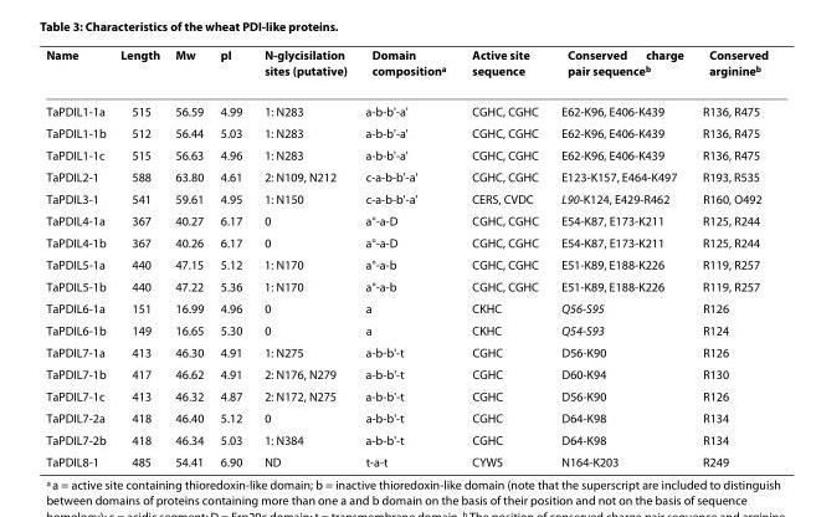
<table><thead><tr><td>Name</td><td>Length</td><td>Mw</td><td>pI</td><td>N-glycisilation sites (putative)</td><td>Domain composition<sup>a</sup></td><td>Active site sequence</td><td>Conserved charge pair sequence<sup>b</sup></td><td>Conserved arginine<sup>b</sup></td></tr></thead><tbody><tr><td>TaPDIL1-1a</td><td>515</td><td>56.59</td><td>4.99</td><td>1: N283</td><td>a-b-b&#x27;-a&#x27;</td><td>CGHC, CGHC</td><td>E62-K96, E406-K439</td><td>R136, R475</td></tr><tr><td>TaPDIL1-1b</td><td>512</td><td>56.44</td><td>5.03</td><td>1: N283</td><td>a-b-b&#x27;-a&#x27;</td><td>CGHC, CGHC</td><td>E62-K96, E406-K439</td><td>R136, R475</td></tr><tr><td>TaPDIL1-1c</td><td>515</td><td>56.63</td><td>4.96</td><td>1: N283</td><td>a-b-b&#x27;-a&#x27;</td><td>CGHC, CGHC</td><td>E62-K96, E406-K439</td><td>R136, R475</td></tr><tr><td>TaPDIL2-1</td><td>588</td><td>63.80</td><td>4.61</td><td>2: N109, N212</td><td>c-a-b-b&#x27;-a&#x27;</td><td>CGHC, CGHC</td><td>E123-K157, E464-K497</td><td>R193, R535</td></tr><tr><td>TaPDIL3-1</td><td>541</td><td>59.61</td><td>4.95</td><td>1: N150</td><td>c-a-b-b&#x27;-a&#x27;</td><td>CERS, CVDC</td><td>L90-K124, E429-R462</td><td>R160, O492</td></tr><tr><td>TaPDIL4-1a</td><td>367</td><td>40.27</td><td>6.17</td><td>0</td><td>a°-a-D</td><td>CGHC, CGHC</td><td>E54-K87, E173-K211</td><td>R125, R244</td></tr><tr><td>TaPDIL4-1b</td><td>367</td><td>40.26</td><td>6.17</td><td>0</td><td>a°-a-D</td><td>CGHC, CGHC</td><td>E54-K87, E173-K211</td><td>R125, R244</td></tr><tr><td>TaPDIL5-1a</td><td>440</td><td>47.15</td><td>5.12</td><td>1: N170</td><td>a°-a-b</td><td>CGHC, CGHC</td><td>E51-K89, E188-K226</td><td>R119, R257</td></tr><tr><td>TaPDIL5-1b</td><td>440</td><td>47.22</td><td>5.36</td><td>1: N170</td><td>a°-a-b</td><td>CGHC, CGHC</td><td>E51-K89, E188-K226</td><td>R119, R257</td></tr><tr><td>TaPDIL6-1a</td><td>151</td><td>16.99</td><td>4.96</td><td>0</td><td>a</td><td>CKHC</td><td>Q56-S95</td><td>R126</td></tr><tr><td>TaPDIL6-1b</td><td>149</td><td>16.65</td><td>5.30</td><td>0</td><td>a</td><td>CKHC</td><td>Q54-S93</td><td>R124</td></tr><tr><td>TaPDIL7-1a</td><td>413</td><td>46.30</td><td>4.91</td><td>1: N275</td><td>a-b-b&#x27;-t</td><td>CGHC</td><td>D56-K90</td><td>R126</td></tr><tr><td>TaPDIL7-1b</td><td>417</td><td>46.62</td><td>4.91</td><td>2: N176, N279</td><td>a-b-b&#x27;-t</td><td>CGHC</td><td>D60-K94</td><td>R130</td></tr><tr><td>TaPDIL7-1c</td><td>413</td><td>46.32</td><td>4.87</td><td>2: N172, N275</td><td>a-b-b&#x27;-t</td><td>CGHC</td><td>D56-K90</td><td>R126</td></tr><tr><td>TaPDIL7-2a</td><td>418</td><td>46.40</td><td>5.12</td><td>0</td><td>a-b-b&#x27;-t</td><td>CGHC</td><td>D64-K98</td><td>R134</td></tr><tr><td>TaPDIL7-2b</td><td>418</td><td>46.34</td><td>5.03</td><td>1: N384</td><td>a-b-b&#x27;-t</td><td>CGHC</td><td>D64-K98</td><td>R134</td></tr><tr><td>TaPDIL8-1</td><td>485</td><td>54.41</td><td>6.90</td><td>ND</td><td>t-a-t</td><td>CYWS</td><td>N164-K203</td><td>R249</td></tr></tbody></table>